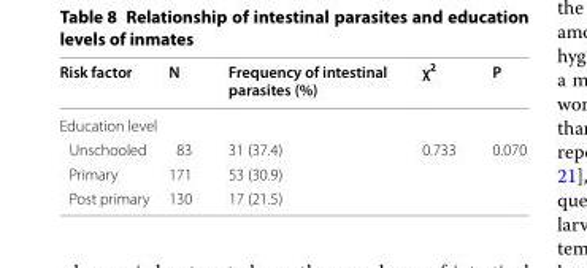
<table><thead><tr><td>Risk factor</td><td>N</td><td>Frequency of intestinal parasites (%)</td><td>χ<sup>2</sup></td><td>P</td></tr></thead><tbody><tr><td colspan="5">Education level</td></tr><tr><td>Unschooled</td><td>83</td><td>31 (37.4)</td><td>0.733</td><td>0.070</td></tr><tr><td>Primary</td><td>171</td><td>53 (30.9)</td><td></td><td></td></tr><tr><td>Post primary</td><td>130</td><td>17 (21.5)</td><td></td><td></td></tr></tbody></table>